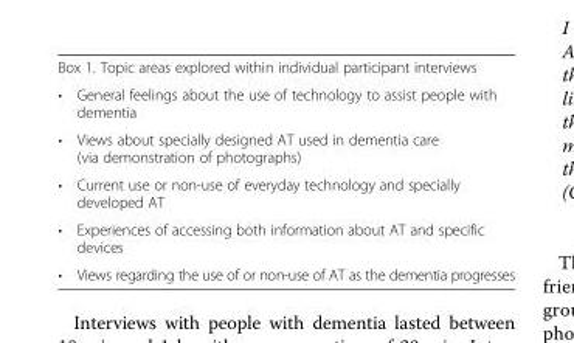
<table><tbody><tr><td colspan="2">Box 1. Topic areas explored within individual participant interviews</td></tr><tr><td>•</td><td>General feelings about the use of technology to assist people with dementia</td></tr><tr><td>•</td><td>Views about specially designed AT used in dementia care (via demonstration of photographs)</td></tr><tr><td>•</td><td>Current use or non-use of everyday technology and specially developed AT</td></tr><tr><td>•</td><td>Experiences of accessing both information about AT and specific devices</td></tr><tr><td>•</td><td>Views regarding the use of or non-use of AT as the dementia progresses</td></tr></tbody></table>